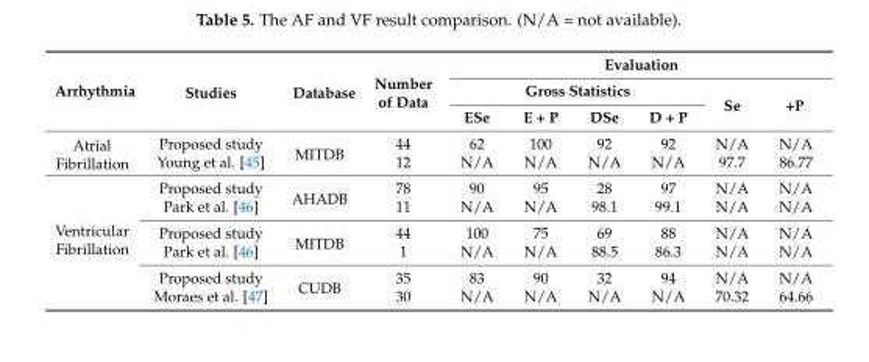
<table><thead><tr><td rowspan="3">Arrhythmia</td><td rowspan="3">Studies</td><td rowspan="3">Database</td><td rowspan="3">Number of Data</td><td colspan="6">Evaluation</td></tr><tr><td colspan="4">Gross Statistics</td><td rowspan="2">Se</td><td rowspan="2">+P</td></tr><tr><td>ESe</td><td>E + P</td><td>DSe</td><td>D + P</td></tr></thead><tbody><tr><td rowspan="2">Atrial Fibrillation</td><td>Proposed study</td><td rowspan="2">MITDB</td><td>44</td><td>62</td><td>100</td><td>92</td><td>92</td><td>N/A</td><td>N/A</td></tr><tr><td>Young et al. [45]</td><td>12</td><td>N/A</td><td>N/A</td><td>N/A</td><td>N/A</td><td>97.7</td><td>86.77</td></tr><tr><td rowspan="6">Ventricular Fibrillation</td><td>Proposed study</td><td rowspan="2">AHADB</td><td>78</td><td>90</td><td>95</td><td>28</td><td>97</td><td>N/A</td><td>N/A</td></tr><tr><td>Park et al. [46]</td><td>11</td><td>N/A</td><td>N/A</td><td>98.1</td><td>99.1</td><td>N/A</td><td>N/A</td></tr><tr><td>Proposed study</td><td rowspan="2">MITDB</td><td>44</td><td>100</td><td>75</td><td>69</td><td>88</td><td>N/A</td><td>N/A</td></tr><tr><td>Park et al. [46]</td><td>1</td><td>N/A</td><td>N/A</td><td>88.5</td><td>86.3</td><td>N/A</td><td>N/A</td></tr><tr><td>Proposed study</td><td rowspan="2">CUDB</td><td>35</td><td>83</td><td>90</td><td>32</td><td>94</td><td>N/A</td><td>N/A</td></tr><tr><td>Moraes et al. [47]</td><td>30</td><td>N/A</td><td>N/A</td><td>N/A</td><td>N/A</td><td>70.32</td><td>64.66</td></tr></tbody></table>